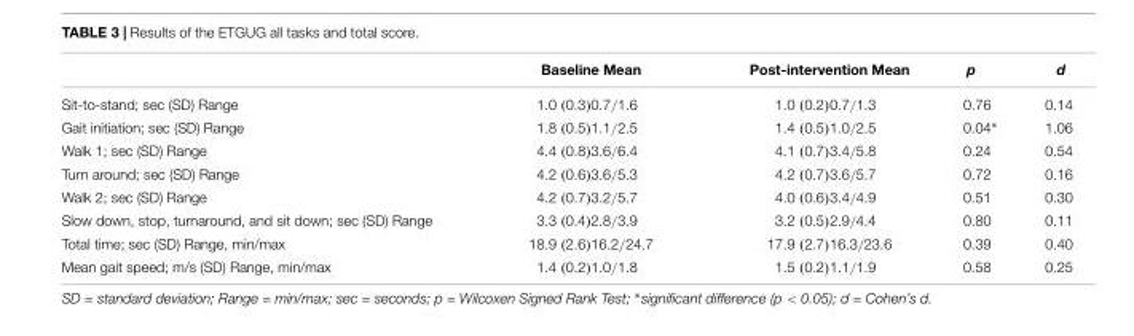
<table><thead><tr><td></td><td>Baseline Mean</td><td>Post-intervention Mean</td><td>p</td><td>d</td></tr></thead><tbody><tr><td>Sit-to-stand; sec (SD) Range</td><td>1.0 (0.3)0.7/1.6</td><td>1.0 (0.2)0.7/1.3</td><td>0.76</td><td>0.14</td></tr><tr><td>Gait initiation; sec (SD) Range</td><td>1.8 (0.5)1.1/2.5</td><td>1.4 (0.5)1.0/2.5</td><td>0.04∗</td><td>1.06</td></tr><tr><td>Walk 1; sec (SD) Range</td><td>4.4 (0.8)3.6/6.4</td><td>4.1 (0.7)3.4/5.8</td><td>0.24</td><td>0.54</td></tr><tr><td>Turn around; sec (SD) Range</td><td>4.2 (0.6)3.6/5.3</td><td>4.2 (0.7)3.6/5.7</td><td>0.72</td><td>0.16</td></tr><tr><td>Walk 2; sec (SD) Range</td><td>4.2 (0.7)3.2/5.7</td><td>4.0 (0.6)3.4/4.9</td><td>0.51</td><td>0.30</td></tr><tr><td>Slow down, stop, turnaround, and sit down; sec (SD) Range</td><td>3.3 (0.4)2.8/3.9</td><td>3.2 (0.5)2.9/4.4</td><td>0.80</td><td>0.11</td></tr><tr><td>Total time; sec (SD) Range, min/max</td><td>18.9 (2.6)16.2/24.7</td><td>17.9 (2.7)16.3/23.6</td><td>0.39</td><td>0.40</td></tr><tr><td>Mean gait speed; m/s (SD) Range, min/max</td><td>1.4 (0.2)1.0/1.8</td><td>1.5 (0.2)1.1/1.9</td><td>0.58</td><td>0.25</td></tr></tbody></table>